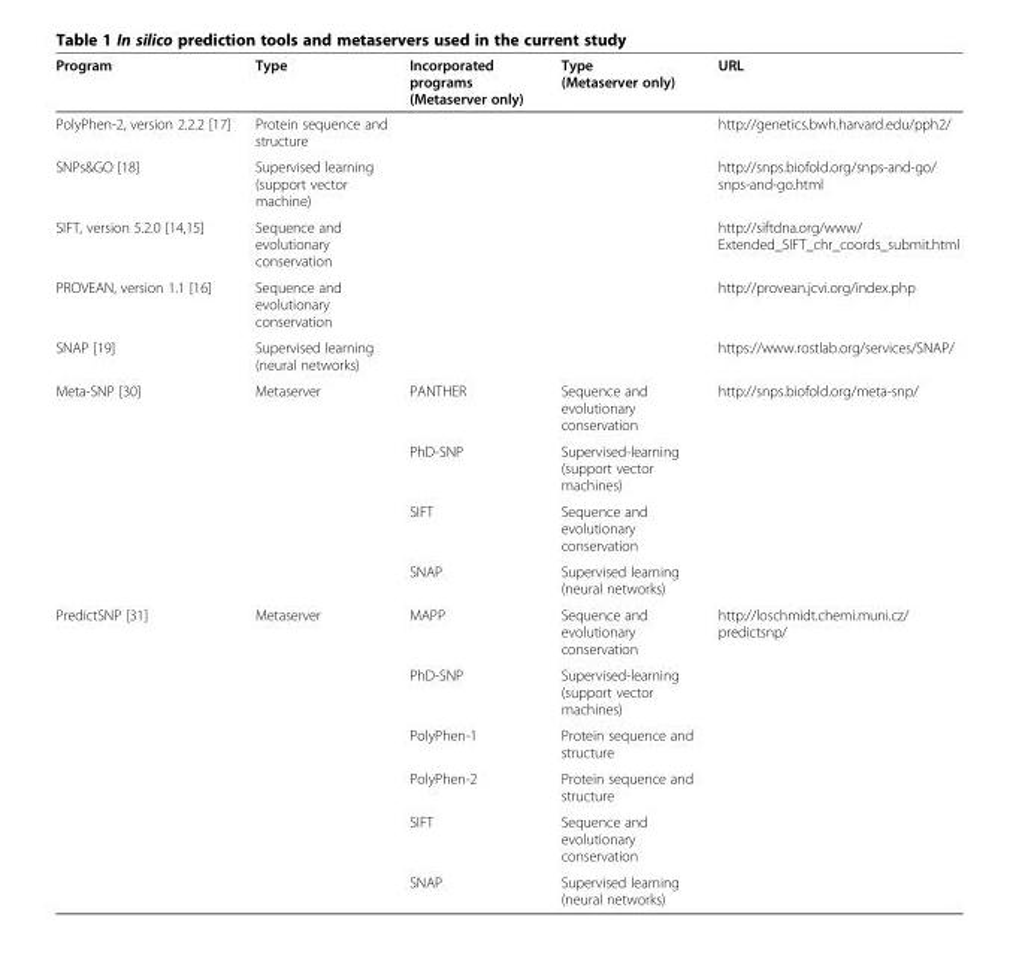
<table><thead><tr><td>Program</td><td>Type</td><td>Incorporated programs (Metaserver only)</td><td>Type (Metaserver only)</td><td>URL</td></tr></thead><tbody><tr><td>PolyPhen-2, version 2.2.2 [17]</td><td>Protein sequence and structure</td><td></td><td></td><td>http://genetics.bwh.harvard.edu/pph2/</td></tr><tr><td>SNPs&amp;GO [18]</td><td>Supervised learning (support vector machine)</td><td></td><td></td><td>http://snps.biofold.org/snps-and-go/ snps-and-go.html</td></tr><tr><td>SIFT, version 5.2.0 [14,15]</td><td>Sequence and evolutionary conservation</td><td></td><td></td><td>http://siftdna.org/www/ Extended_SIFT_chr_coords_submit.html</td></tr><tr><td>PROVEAN, version 1.1 [16]</td><td>Sequence and evolutionary conservation</td><td></td><td></td><td>http://provean.jcvi.org/index.php</td></tr><tr><td>SNAP [19]</td><td>Supervised learning (neural networks)</td><td></td><td></td><td>https://www.rostlab.org/services/SNAP/</td></tr><tr><td rowspan="4">Meta-SNP [30]</td><td rowspan="4">Metaserver</td><td>PANTHER</td><td>Sequence and evolutionary conservation</td><td rowspan="4">http://snps.biofold.org/meta-snp/</td></tr><tr><td>PhD-SNP</td><td>Supervised-learning (support vector machines)</td></tr><tr><td>SIFT</td><td>Sequence and evolutionary conservation</td></tr><tr><td>SNAP</td><td>Supervised learning (neural networks)</td></tr><tr><td rowspan="6">PredictSNP [31]</td><td rowspan="6">Metaserver</td><td>MAPP</td><td>Sequence and evolutionary conservation</td><td rowspan="6">http://loschmidt.chemi.muni.cz/ predictsnp/</td></tr><tr><td>PhD-SNP</td><td>Supervised-learning (support vector machines)</td></tr><tr><td>PolyPhen-1</td><td>Protein sequence and structure</td></tr><tr><td>PolyPhen-2</td><td>Protein sequence and structure</td></tr><tr><td>SIFT</td><td>Sequence and evolutionary conservation</td></tr><tr><td>SNAP</td><td>Supervised learning (neural networks)</td></tr></tbody></table>